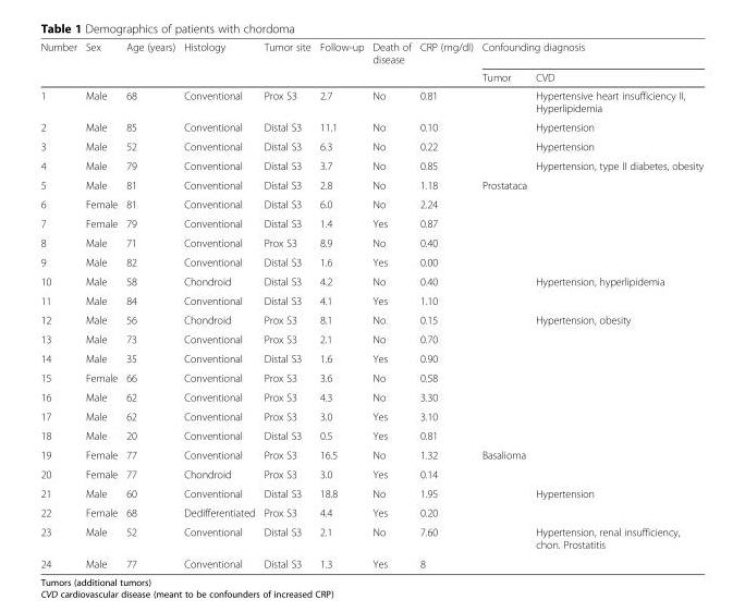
<table><thead><tr><td rowspan="2">Number</td><td rowspan="2">Sex</td><td rowspan="2">Age (years)</td><td rowspan="2">Histology</td><td rowspan="2">Tumor site</td><td rowspan="2">Follow-up</td><td rowspan="2">Death of disease</td><td rowspan="2">CRP (mg/dl)</td><td colspan="2">Confounding diagnosis</td></tr><tr><td>Tumor</td><td>CVD</td></tr></thead><tbody><tr><td>1</td><td>Male</td><td>68</td><td>Conventional</td><td>Prox S3</td><td>2.7</td><td>No</td><td>0.81</td><td></td><td>Hypertensive heart insufficiency II, Hyperlipidemia</td></tr><tr><td>2</td><td>Male</td><td>85</td><td>Conventional</td><td>Distal S3</td><td>11.1</td><td>No</td><td>0.10</td><td></td><td>Hypertension</td></tr><tr><td>3</td><td>Male</td><td>52</td><td>Conventional</td><td>Distal S3</td><td>6.3</td><td>No</td><td>0.22</td><td></td><td>Hypertension</td></tr><tr><td>4</td><td>Male</td><td>79</td><td>Conventional</td><td>Distal S3</td><td>3.7</td><td>No</td><td>0.85</td><td></td><td>Hypertension, type II diabetes, obesity</td></tr><tr><td>5</td><td>Male</td><td>81</td><td>Conventional</td><td>Distal S3</td><td>2.8</td><td>No</td><td>1.18</td><td>Prostataca</td><td></td></tr><tr><td>6</td><td>Female</td><td>81</td><td>Conventional</td><td>Distal S3</td><td>6.0</td><td>No</td><td>2.24</td><td></td><td></td></tr><tr><td>7</td><td>Female</td><td>79</td><td>Conventional</td><td>Distal S3</td><td>1.4</td><td>Yes</td><td>0.87</td><td></td><td></td></tr><tr><td>8</td><td>Male</td><td>71</td><td>Conventional</td><td>Prox S3</td><td>8.9</td><td>No</td><td>0.40</td><td></td><td></td></tr><tr><td>9</td><td>Male</td><td>82</td><td>Conventional</td><td>Distal S3</td><td>1.6</td><td>Yes</td><td>0.00</td><td></td><td></td></tr><tr><td>10</td><td>Male</td><td>58</td><td>Chondroid</td><td>Distal S3</td><td>4.2</td><td>No</td><td>0.40</td><td></td><td>Hypertension, hyperlipidemia</td></tr><tr><td>11</td><td>Male</td><td>84</td><td>Conventional</td><td>Distal S3</td><td>4.1</td><td>Yes</td><td>1.10</td><td></td><td></td></tr><tr><td>12</td><td>Male</td><td>56</td><td>Chondroid</td><td>Prox S3</td><td>8.1</td><td>No</td><td>0.15</td><td></td><td>Hypertension, obesity</td></tr><tr><td>13</td><td>Male</td><td>73</td><td>Conventional</td><td>Prox S3</td><td>2.1</td><td>No</td><td>0.70</td><td></td><td></td></tr><tr><td>14</td><td>Male</td><td>35</td><td>Conventional</td><td>Distal S3</td><td>1.6</td><td>Yes</td><td>0.90</td><td></td><td></td></tr><tr><td>15</td><td>Female</td><td>66</td><td>Conventional</td><td>Prox S3</td><td>3.6</td><td>No</td><td>0.58</td><td></td><td></td></tr><tr><td>16</td><td>Male</td><td>62</td><td>Conventional</td><td>Prox S3</td><td>4.3</td><td>No</td><td>3.30</td><td></td><td></td></tr><tr><td>17</td><td>Male</td><td>62</td><td>Conventional</td><td>Prox S3</td><td>3.0</td><td>Yes</td><td>3.10</td><td></td><td></td></tr><tr><td>18</td><td>Male</td><td>20</td><td>Conventional</td><td>Distal S3</td><td>0.5</td><td>Yes</td><td>0.81</td><td></td><td></td></tr><tr><td>19</td><td>Female</td><td>77</td><td>Conventional</td><td>Prox S3</td><td>16.5</td><td>No</td><td>1.32</td><td>Basalioma</td><td></td></tr><tr><td>20</td><td>Female</td><td>77</td><td>Chondroid</td><td>Prox S3</td><td>3.0</td><td>Yes</td><td>0.14</td><td></td><td></td></tr><tr><td>21</td><td>Male</td><td>60</td><td>Conventional</td><td>Distal S3</td><td>18.8</td><td>No</td><td>1.95</td><td></td><td>Hypertension</td></tr><tr><td>22</td><td>Female</td><td>68</td><td>Dedifferentiated</td><td>Prox S3</td><td>4.4</td><td>Yes</td><td>0.20</td><td></td><td></td></tr><tr><td>23</td><td>Male</td><td>52</td><td>Conventional</td><td>Distal S3</td><td>2.1</td><td>No</td><td>7.60</td><td></td><td>Hypertension, renal insufficiency, chon. Prostatitis</td></tr><tr><td>24</td><td>Male</td><td>77</td><td>Conventional</td><td>Distal S3</td><td>1.3</td><td>Yes</td><td>8</td><td></td><td></td></tr></tbody></table>